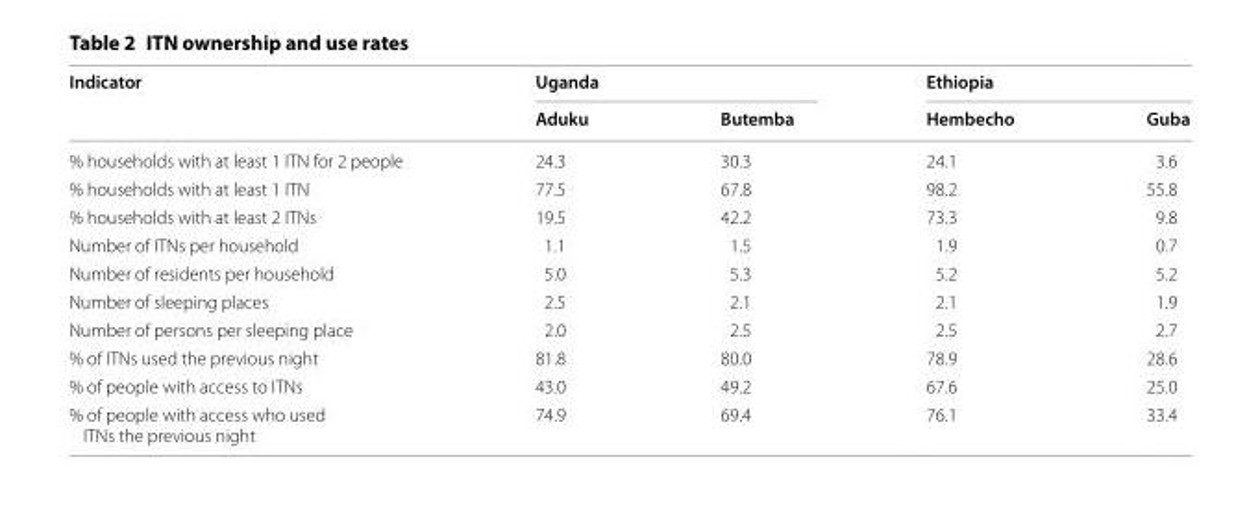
<table><thead><tr><td rowspan="2">Indicator</td><td colspan="2">Uganda</td><td colspan="2">Ethiopia</td></tr><tr><td>Aduku</td><td>Butemba</td><td>Hembecho</td><td>Guba</td></tr></thead><tbody><tr><td>% households with at least 1 ITN for 2 people</td><td>24.3</td><td>30.3</td><td>24.1</td><td>3.6</td></tr><tr><td>% households with at least 1 ITN</td><td>77.5</td><td>67.8</td><td>98.2</td><td>55.8</td></tr><tr><td>% households with at least 2 ITNs</td><td>19.5</td><td>42.2</td><td>73.3</td><td>9.8</td></tr><tr><td>Number of ITNs per household</td><td>1.1</td><td>1.5</td><td>1.9</td><td>0.7</td></tr><tr><td>Number of residents per household</td><td>5.0</td><td>5.3</td><td>5.2</td><td>5.2</td></tr><tr><td>Number of sleeping places</td><td>2.5</td><td>2.1</td><td>2.1</td><td>1.9</td></tr><tr><td>Number of persons per sleeping place</td><td>2.0</td><td>2.5</td><td>2.5</td><td>2.7</td></tr><tr><td>% of ITNs used the previous night</td><td>81.8</td><td>80.0</td><td>78.9</td><td>28.6</td></tr><tr><td>% of people with access to ITNs</td><td>43.0</td><td>49.2</td><td>67.6</td><td>25.0</td></tr><tr><td>% of people with access who used ITNs the previous night</td><td>74.9</td><td>69.4</td><td>76.1</td><td>33.4</td></tr></tbody></table>